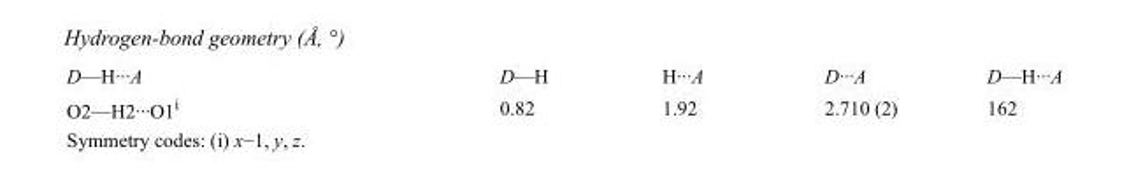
<table><tbody><tr><td>D—H···A</td><td>D—H</td><td>H···A</td><td>D···A</td><td>D—H···A</td></tr><tr><td>O2—H2···O1<sup>i</sup></td><td>0.82</td><td>1.92</td><td>2.710 (2)</td><td>162</td></tr></tbody></table>